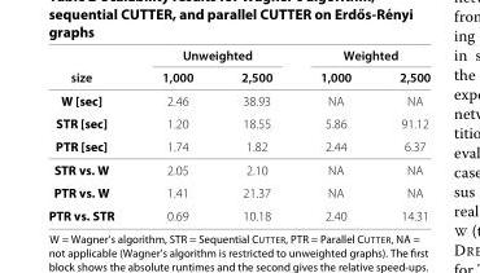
<table><thead><tr><td rowspan="2">size</td><td colspan="2">Unweighted</td><td colspan="2">Weighted</td></tr><tr><td>1,000</td><td>2,500</td><td>1,000</td><td>2,500</td></tr></thead><tbody><tr><td>W [sec]</td><td>2.46</td><td>38.93</td><td>NA</td><td>NA</td></tr><tr><td>STR [sec]</td><td>1.20</td><td>18.55</td><td>5.86</td><td>91.12</td></tr><tr><td>PTR [sec]</td><td>1.74</td><td>1.82</td><td>2.44</td><td>6.37</td></tr><tr><td>STR vs. W</td><td>2.05</td><td>2.10</td><td>NA</td><td>NA</td></tr><tr><td>PTR vs. W</td><td>1.41</td><td>21.37</td><td>NA</td><td>NA</td></tr><tr><td>PTR vs. STR</td><td>0.69</td><td>10.18</td><td>2.40</td><td>14.31</td></tr></tbody></table>